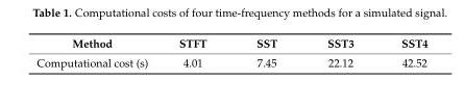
<table><thead><tr><td>Method</td><td>STFT</td><td>SST</td><td>SST3</td><td>SST4</td></tr></thead><tbody><tr><td>Computational cost (s)</td><td>4.01</td><td>7.45</td><td>22.12</td><td>42.52</td></tr></tbody></table>